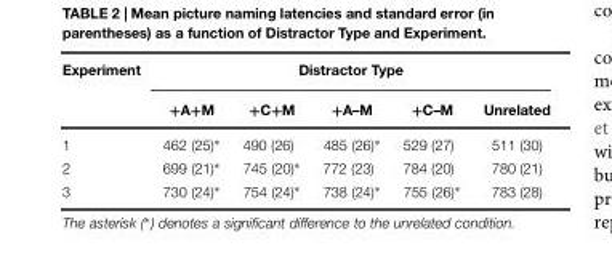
<table><thead><tr><td rowspan="2">Experiment</td><td colspan="5">Distractor Type</td></tr><tr><td>+A+M</td><td>+C+M</td><td>+A–M</td><td>+C–M</td><td>Unrelated</td></tr></thead><tbody><tr><td>1</td><td>462 (25)∗</td><td>490 (26)</td><td>485 (26)∗</td><td>529 (27)</td><td>511 (30)</td></tr><tr><td>2</td><td>699 (21)∗</td><td>745 (20)∗</td><td>772 (23)</td><td>784 (20)</td><td>780 (21)</td></tr><tr><td>3</td><td>730 (24)∗</td><td>754 (24)∗</td><td>738 (24)∗</td><td>755 (26)∗</td><td>783 (28)</td></tr></tbody></table>